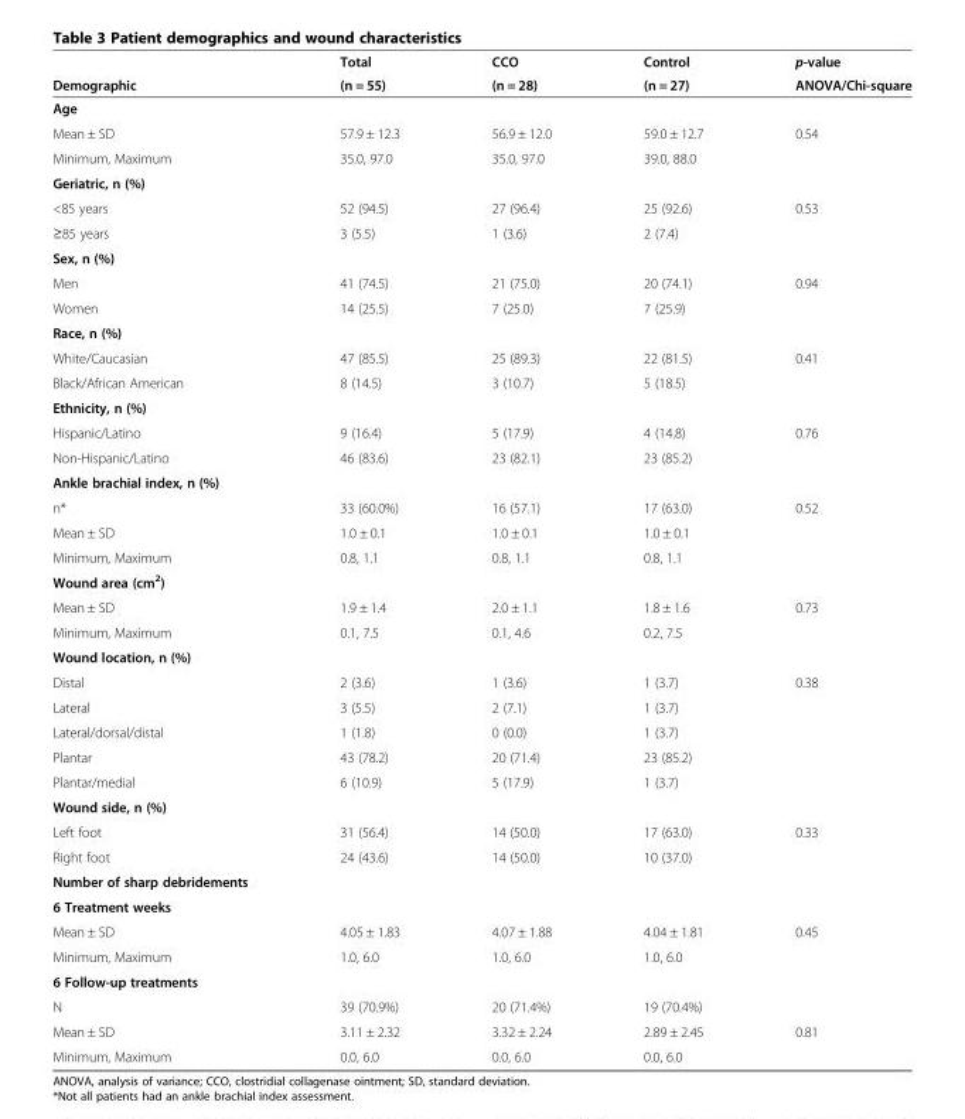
<table><thead><tr><td rowspan="2">Demographic</td><td rowspan="2">Total (n = 55)</td><td rowspan="2">CCO (n = 28)</td><td rowspan="2">Control (n = 27)</td><td rowspan="2">p-value ANOVA/Chi-square</td></tr><tr></tr></thead><tbody><tr><td colspan="5">Age</td></tr><tr><td>Mean ± SD</td><td>57.9 ± 12.3</td><td>56.9 ± 12.0</td><td>59.0 ± 12.7</td><td>0.54</td></tr><tr><td>Minimum, Maximum</td><td>35.0, 97.0</td><td>35.0, 97.0</td><td>39.0, 88.0</td><td></td></tr><tr><td colspan="5">Geriatric, n (%)</td></tr><tr><td>&lt;85 years</td><td>52 (94.5)</td><td>27 (96.4)</td><td>25 (92.6)</td><td>0.53</td></tr><tr><td>≥85 years</td><td>3 (5.5)</td><td>1 (3.6)</td><td>2 (7.4)</td><td></td></tr><tr><td colspan="5">Sex, n (%)</td></tr><tr><td>Men</td><td>41 (74.5)</td><td>21 (75.0)</td><td>20 (74.1)</td><td>0.94</td></tr><tr><td>Women</td><td>14 (25.5)</td><td>7 (25.0)</td><td>7 (25.9)</td><td></td></tr><tr><td colspan="5">Race, n (%)</td></tr><tr><td>White/Caucasian</td><td>47 (85.5)</td><td>25 (89.3)</td><td>22 (81.5)</td><td>0.41</td></tr><tr><td>Black/African American</td><td>8 (14.5)</td><td>3 (10.7)</td><td>5 (18.5)</td><td></td></tr><tr><td colspan="5">Ethnicity, n (%)</td></tr><tr><td>Hispanic/Latino</td><td>9 (16.4)</td><td>5 (17.9)</td><td>4 (14.8)</td><td>0.76</td></tr><tr><td>Non-Hispanic/Latino</td><td>46 (83.6)</td><td>23 (82.1)</td><td>23 (85.2)</td><td></td></tr><tr><td colspan="5">Ankle brachial index, n (%)</td></tr><tr><td>n*</td><td>33 (60.0%)</td><td>16 (57.1)</td><td>17 (63.0)</td><td>0.52</td></tr><tr><td>Mean ± SD</td><td>1.0 ± 0.1</td><td>1.0 ± 0.1</td><td>1.0 ± 0.1</td><td></td></tr><tr><td>Minimum, Maximum</td><td>0.8, 1.1</td><td>0.8, 1.1</td><td>0.8, 1.1</td><td></td></tr><tr><td colspan="5">Wound area (cm<sup>2</sup>)</td></tr><tr><td>Mean ± SD</td><td>1.9 ± 1.4</td><td>2.0 ± 1.1</td><td>1.8 ± 1.6</td><td>0.73</td></tr><tr><td>Minimum, Maximum</td><td>0.1, 7.5</td><td>0.1, 4.6</td><td>0.2, 7.5</td><td></td></tr><tr><td colspan="5">Wound location, n (%)</td></tr><tr><td>Distal</td><td>2 (3.6)</td><td>1 (3.6)</td><td>1 (3.7)</td><td>0.38</td></tr><tr><td>Lateral</td><td>3 (5.5)</td><td>2 (7.1)</td><td>1 (3.7)</td><td></td></tr><tr><td>Lateral/dorsal/distal</td><td>1 (1.8)</td><td>0 (0.0)</td><td>1 (3.7)</td><td></td></tr><tr><td>Plantar</td><td>43 (78.2)</td><td>20 (71.4)</td><td>23 (85.2)</td><td></td></tr><tr><td>Plantar/medial</td><td>6 (10.9)</td><td>5 (17.9)</td><td>1 (3.7)</td><td></td></tr><tr><td colspan="5">Wound side, n (%)</td></tr><tr><td>Left foot</td><td>31 (56.4)</td><td>14 (50.0)</td><td>17 (63.0)</td><td>0.33</td></tr><tr><td>Right foot</td><td>24 (43.6)</td><td>14 (50.0)</td><td>10 (37.0)</td><td></td></tr><tr><td colspan="5">Number of sharp debridements</td></tr><tr><td colspan="5">6 Treatment weeks</td></tr><tr><td>Mean ± SD</td><td>4.05 ± 1.83</td><td>4.07 ± 1.88</td><td>4.04 ± 1.81</td><td>0.45</td></tr><tr><td>Minimum, Maximum</td><td>1.0, 6.0</td><td>1.0, 6.0</td><td>1.0, 6.0</td><td></td></tr><tr><td colspan="5">6 Follow-up treatments</td></tr><tr><td>N</td><td>39 (70.9%)</td><td>20 (71.4%)</td><td>19 (70.4%)</td><td></td></tr><tr><td>Mean ± SD</td><td>3.11 ± 2.32</td><td>3.32 ± 2.24</td><td>2.89 ± 2.45</td><td>0.81</td></tr><tr><td>Minimum, Maximum</td><td>0.0, 6.0</td><td>0.0, 6.0</td><td>0.0, 6.0</td><td></td></tr></tbody></table>